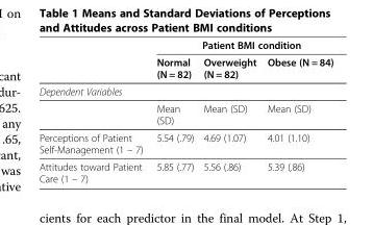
<table><thead><tr><td rowspan="2"></td><td colspan="3">Patient BMI condition</td></tr><tr><td>Normal (N = 82)</td><td>Overweight (N = 82)</td><td>Obese (N = 84)</td></tr></thead><tbody><tr><td colspan="4">Dependent Variables</td></tr><tr><td></td><td>Mean (SD)</td><td>Mean (SD)</td><td>Mean (SD)</td></tr><tr><td>Perceptions of Patient Self-Management (1 – 7)</td><td>5.54 (.79)</td><td>4.69 (1.07)</td><td>4.01 (1.10)</td></tr><tr><td>Attitudes toward Patient Care (1 – 7)</td><td>5.85 (.77)</td><td>5.56 (.86)</td><td>5.39 (.86)</td></tr></tbody></table>